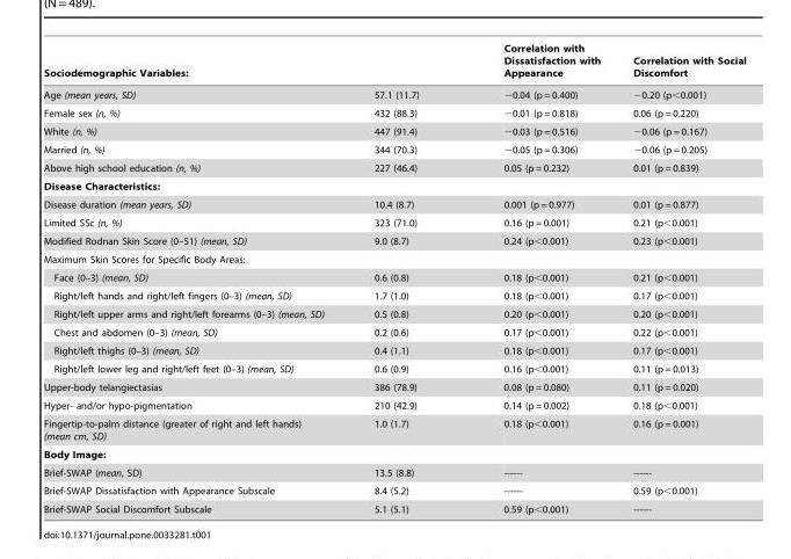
<table><thead><tr><td>Sociodemographic Variables:</td><td></td><td>Correlation with Dissatisfaction with Appearance</td><td>Correlation with Social Discomfort</td></tr></thead><tbody><tr><td>Age (mean years, SD)</td><td>57.1 (11.7)</td><td>−0.04 (p = 0.400)</td><td>−0.20 (p&lt;0.001)</td></tr><tr><td>Female sex (n, %)</td><td>432 (88.3)</td><td>−0.01 (p = 0.818)</td><td>0.06 (p = 0.220)</td></tr><tr><td>White (n, %)</td><td>447 (91.4)</td><td>−0.03 (p = 0.516)</td><td>−0.06 (p = 0.167)</td></tr><tr><td>Married (n, %)</td><td>344 (70.3)</td><td>−0.05 (p = 0.306)</td><td>−0.06 (p = 0.205)</td></tr><tr><td>Above high school education (n, %)</td><td>227 (46.4)</td><td>0.05 (p = 0.232)</td><td>0.01 (p = 0.839)</td></tr><tr><td colspan="4">Disease Characteristics:</td></tr><tr><td>Disease duration (mean years, SD)</td><td>10.4 (8.7)</td><td>0.001 (p = 0.977)</td><td>0.01 (p = 0.877)</td></tr><tr><td>Limited SSc (n, %)</td><td>323 (71.0)</td><td>0.16 (p = 0.001)</td><td>0.21 (p&lt;0.001)</td></tr><tr><td>Modified Rodnan Skin Score (0–51) (mean, SD)</td><td>9.0 (8.7)</td><td>0.24 (p&lt;0.001)</td><td>0.23 (p&lt;0.001)</td></tr><tr><td colspan="4">Maximum Skin Scores for Specific Body Areas:</td></tr><tr><td>Face (0–3) (mean, SD)</td><td>0.6 (0.8)</td><td>0.18 (p&lt;0.001)</td><td>0.21 (p&lt;0.001)</td></tr><tr><td>Right/left hands and right/left fingers (0–3) (mean, SD)</td><td>1.7 (1.0)</td><td>0.18 (p&lt;0.001)</td><td>0.17 (p&lt;0.001)</td></tr><tr><td>Right/left upper arms and right/left forearms (0–3) (mean, SD)</td><td>0.5 (0.8)</td><td>0.20 (p&lt;0.001)</td><td>0.20 (p&lt;0.001)</td></tr><tr><td>Chest and abdomen (0–3) (mean, SD)</td><td>0.2 (0.6)</td><td>0.17 (p&lt;0.001)</td><td>0.22 (p&lt;0.001)</td></tr><tr><td>Right/left thighs (0–3) (mean, SD)</td><td>0.4 (1.1)</td><td>0.18 (p&lt;0.001)</td><td>0.17 (p&lt;0.001)</td></tr><tr><td>Right/left lower leg and right/left feet (0–3) (mean, SD)</td><td>0.6 (0.9)</td><td>0.16 (p&lt;0.001)</td><td>0.11 (p = 0.013)</td></tr><tr><td>Upper-body telangiectasias</td><td>386 (78.9)</td><td>0.08 (p = 0.080)</td><td>0.11 (p = 0.020)</td></tr><tr><td>Hyper- and/or hypo-pigmentation</td><td>210 (42.9)</td><td>0.14 (p = 0.002)</td><td>0.18 (p&lt;0.001)</td></tr><tr><td>Fingertip-to-palm distance (greater of right and left hands) (mean cm, SD)</td><td>1.0 (1.7)</td><td>0.18 (p&lt;0.001)</td><td>0.16 (p = 0.001)</td></tr><tr><td colspan="4">Body Image:</td></tr><tr><td>Brief-SWAP (mean, SD)</td><td>13.5 (8.8)</td><td>------</td><td>------</td></tr><tr><td>Brief-SWAP Dissatisfaction with Appearance Subscale</td><td>8.4 (5.2)</td><td>------</td><td>0.59 (p&lt;0.001)</td></tr><tr><td>Brief-SWAP Social Discomfort Subscale</td><td>5.1 (5.1)</td><td>0.59 (p&lt;0.001)</td><td>------</td></tr></tbody></table>